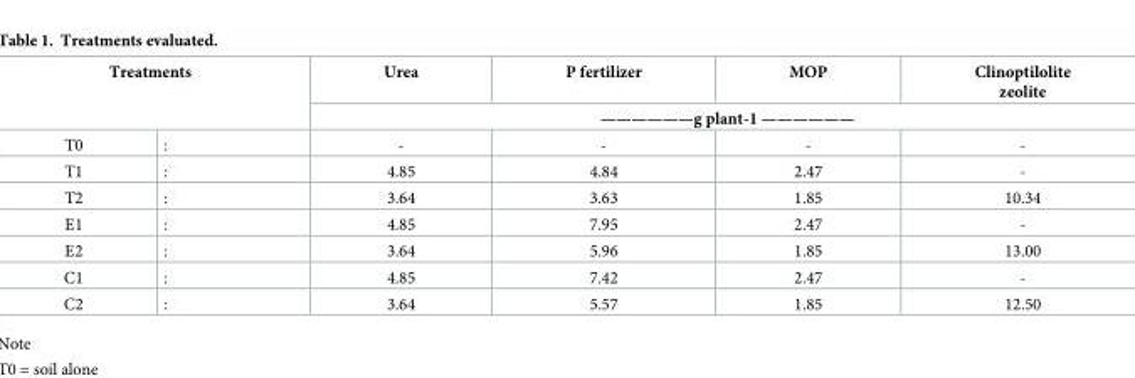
<table><thead><tr><td rowspan="2" colspan="2">Treatments</td><td>Urea</td><td>P fertilizer</td><td>MOP</td><td>Clinoptilolite zeolite</td></tr><tr><td colspan="4">——————g plant-1 ——————</td></tr><tr><td>T0</td><td>:</td><td>-</td><td>-</td><td>-</td><td>-</td></tr></thead><tbody><tr><td>T1</td><td>:</td><td>4.85</td><td>4.84</td><td>2.47</td><td>-</td></tr><tr><td>T2</td><td>:</td><td>3.64</td><td>3.63</td><td>1.85</td><td>10.34</td></tr><tr><td>E1</td><td>:</td><td>4.85</td><td>7.95</td><td>2.47</td><td>-</td></tr><tr><td>E2</td><td>:</td><td>3.64</td><td>5.96</td><td>1.85</td><td>13.00</td></tr><tr><td>C1</td><td>:</td><td>4.85</td><td>7.42</td><td>2.47</td><td>-</td></tr><tr><td>C2</td><td>:</td><td>3.64</td><td>5.57</td><td>1.85</td><td>12.50</td></tr></tbody></table>